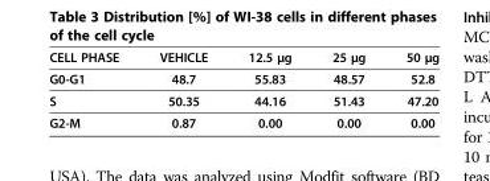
<table><thead><tr><td>CELL PHASE</td><td>VEHICLE</td><td>12.5 μg</td><td>25 μg</td><td>50 μg</td></tr></thead><tbody><tr><td>G0-G1</td><td>48.7</td><td>55.83</td><td>48.57</td><td>52.8</td></tr><tr><td>S</td><td>50.35</td><td>44.16</td><td>51.43</td><td>47.20</td></tr><tr><td>G2-M</td><td>0.87</td><td>0.00</td><td>0.00</td><td>0.00</td></tr></tbody></table>